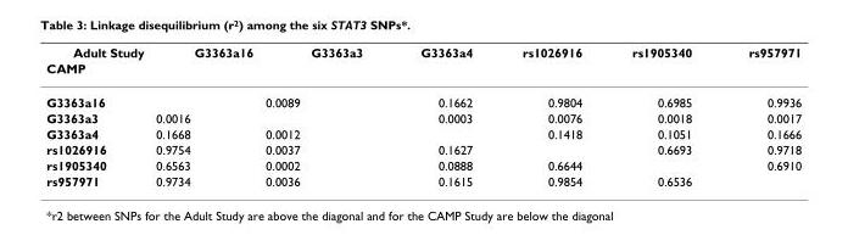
<table><thead><tr><td rowspan="2">Adult Study CAMP</td><td rowspan="2">G3363a16</td><td rowspan="2">G3363a3</td><td rowspan="2">G3363a4</td><td rowspan="2">rs1026916</td><td rowspan="2">rs1905340</td><td rowspan="2">rs957971</td></tr><tr></tr></thead><tbody><tr><td>G3363a16</td><td></td><td>0.0089</td><td>0.1662</td><td>0.9804</td><td>0.6985</td><td>0.9936</td></tr><tr><td>G3363a3</td><td>0.0016</td><td></td><td>0.0003</td><td>0.0076</td><td>0.0018</td><td>0.0017</td></tr><tr><td>G3363a4</td><td>0.1668</td><td>0.0012</td><td></td><td>0.1418</td><td>0.1051</td><td>0.1666</td></tr><tr><td>rs1026916</td><td>0.9754</td><td>0.0037</td><td>0.1627</td><td></td><td>0.6693</td><td>0.9718</td></tr><tr><td>rs1905340</td><td>0.6563</td><td>0.0002</td><td>0.0888</td><td>0.6644</td><td></td><td>0.6910</td></tr><tr><td>rs957971</td><td>0.9734</td><td>0.0036</td><td>0.1615</td><td>0.9854</td><td>0.6536</td><td></td></tr></tbody></table>